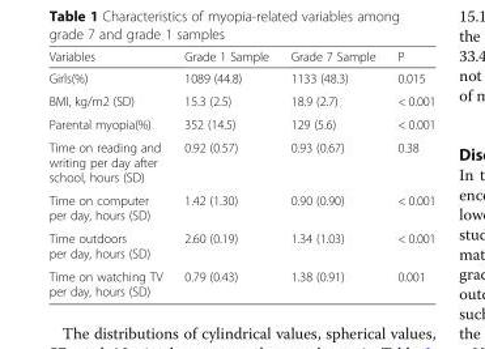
<table><thead><tr><td>Variables</td><td>Grade 1 Sample</td><td>Grade 7 Sample</td><td>P</td></tr></thead><tbody><tr><td>Girls(%)</td><td>1089 (44.8)</td><td>1133 (48.3)</td><td>0.015</td></tr><tr><td>BMI, kg/m2 (SD)</td><td>15.3 (2.5)</td><td>18.9 (2.7)</td><td>&lt; 0.001</td></tr><tr><td>Parental myopia(%)</td><td>352 (14.5)</td><td>129 (5.6)</td><td>&lt; 0.001</td></tr><tr><td>Time on reading and writing per day after school, hours (SD)</td><td>0.92 (0.57)</td><td>0.93 (0.67)</td><td>0.38</td></tr><tr><td>Time on computer per day, hours (SD)</td><td>1.42 (1.30)</td><td>0.90 (0.90)</td><td>&lt; 0.001</td></tr><tr><td>Time outdoors per day, hours (SD)</td><td>2.60 (0.19)</td><td>1.34 (1.03)</td><td>&lt; 0.001</td></tr><tr><td>Time on watching TV per day, hours (SD)</td><td>0.79 (0.43)</td><td>1.38 (0.91)</td><td>0.001</td></tr></tbody></table>